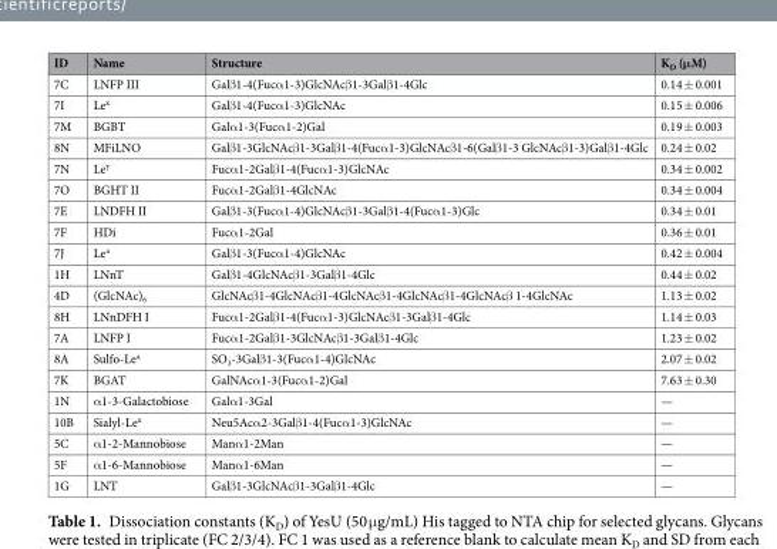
<table><thead><tr><td>ID</td><td>Name</td><td>Structure</td><td>K<sub>D</sub> (μM)</td></tr></thead><tbody><tr><td>7C</td><td>LNFP III</td><td>Galβ1-4(Fucα1-3)GlcNAcβ1-3Galβ1-4Glc</td><td>0.14 ± 0.001</td></tr><tr><td>7I</td><td>Le<sup>x</sup></td><td>Galβ1-4(Fucα1-3)GlcNAc</td><td>0.15 ± 0.006</td></tr><tr><td>7M</td><td>BGBT</td><td>Galα1-3(Fucα1-2)Gal</td><td>0.19 ± 0.003</td></tr><tr><td>8N</td><td>MFiLNO</td><td>Galβ1-3GlcNAcβ1-3Galβ1-4(Fucα1-3)GlcNAcβ1-6(Galβ1-3 GlcNAcβ1-3)Galβ1-4Glc</td><td>0.24 ± 0.02</td></tr><tr><td>7N</td><td>Le<sup>y</sup></td><td>Fucα1-2Galβ1-4(Fucα1-3)GlcNAc</td><td>0.34 ± 0.002</td></tr><tr><td>7O</td><td>BGHT II</td><td>Fucα1-2Galβ1-4GlcNAc</td><td>0.34 ± 0.004</td></tr><tr><td>7E</td><td>LNDFH II</td><td>Galβ1-3(Fucα1-4)GlcNAcβ1-3Galβ1-4(Fucα1-3)Glc</td><td>0.34 ± 0.01</td></tr><tr><td>7F</td><td>HDi</td><td>Fucα1-2Gal</td><td>0.36 ± 0.01</td></tr><tr><td>7J</td><td>Le<sup>a</sup></td><td>Galβ1-3(Fucα1-4)GlcNAc</td><td>0.42 ± 0.004</td></tr><tr><td>1H</td><td>LNnT</td><td>Galβ1-4GlcNAcβ1-3Galβ1-4Glc</td><td>0.44 ± 0.02</td></tr><tr><td>4D</td><td>(GlcNAc)<sub>6</sub></td><td>GlcNAcβ1-4GlcNAcβ1-4GlcNAcβ1-4GlcNAcβ1-4GlcNAcβ 1-4GlcNAc</td><td>1.13 ± 0.02</td></tr><tr><td>8H</td><td>LNnDFH I</td><td>Fucα1-2Galβ1-4(Fucα1-3)GlcNAcβ1-3Galβ1-4Glc</td><td>1.14 ± 0.03</td></tr><tr><td>7A</td><td>LNFP I</td><td>Fucα1-2Galβ1-3GlcNAcβ1-3Galβ1-4Glc</td><td>1.23 ± 0.02</td></tr><tr><td>8A</td><td>Sulfo-Le<sup>a</sup></td><td>SO<sub>3</sub>-3Galβ1-3(Fucα1-4)GlcNAc</td><td>2.07 ± 0.02</td></tr><tr><td>7K</td><td>BGAT</td><td>GalNAcα1-3(Fucα1-2)Gal</td><td>7.63 ± 0.30</td></tr><tr><td>1N</td><td>α1-3-Galactobiose</td><td>Galα1-3Gal</td><td>—</td></tr><tr><td>10B</td><td>Sialyl-Le<sup>x</sup></td><td>Neu5Acα2-3Galβ1-4(Fucα1-3)GlcNAc</td><td>—</td></tr><tr><td>5C</td><td>α1-2-Mannobiose</td><td>Manα1-2Man</td><td>—</td></tr><tr><td>5F</td><td>α1-6-Mannobiose</td><td>Manα1-6Man</td><td>—</td></tr><tr><td>1G</td><td>LNT</td><td>Galβ1-3GlcNAcβ1-3Galβ1-4Glc</td><td>—</td></tr></tbody></table>